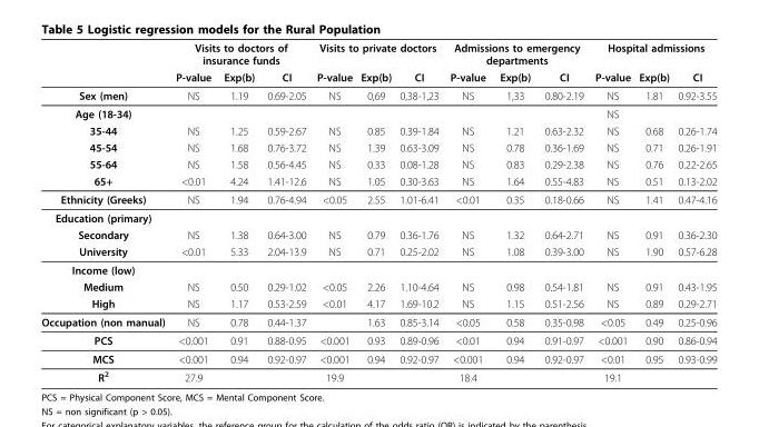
<table><thead><tr><td rowspan="2"></td><td colspan="3">Visits to doctors of insurance funds</td><td colspan="3">Visits to private doctors</td><td colspan="3">Admissions to emergency departments</td><td colspan="3">Hospital admissions</td></tr><tr><td>P-value</td><td>Exp(b)</td><td>CI</td><td>P-value</td><td>Exp(b)</td><td>CI</td><td>P-value</td><td>Exp(b)</td><td>CI</td><td>P-value</td><td>Exp(b)</td><td>CI</td></tr></thead><tbody><tr><td>Sex (men)</td><td>NS</td><td>1.19</td><td>0.69-2.05</td><td>NS</td><td>0,69</td><td>0,38-1,23</td><td>NS</td><td>1,33</td><td>0.80-2.19</td><td>NS</td><td>1.81</td><td>0.92-3.55</td></tr><tr><td>Age (18-34)</td><td></td><td></td><td></td><td></td><td></td><td></td><td></td><td></td><td></td><td>NS</td><td></td><td></td></tr><tr><td>35-44</td><td>NS</td><td>1.25</td><td>0.59-2.67</td><td>NS</td><td>0.85</td><td>0.39-1.84</td><td>NS</td><td>1.21</td><td>0.63-2.32</td><td>NS</td><td>0.68</td><td>0.26-1.74</td></tr><tr><td>45-54</td><td>NS</td><td>1.68</td><td>0.76-3.72</td><td>NS</td><td>1.39</td><td>0.63-3.09</td><td>NS</td><td>0.78</td><td>0.36-1.69</td><td>NS</td><td>0.71</td><td>0.26-1.91</td></tr><tr><td>55-64</td><td>NS</td><td>1.58</td><td>0.56-4.45</td><td>NS</td><td>0.33</td><td>0.08-1.28</td><td>NS</td><td>0.83</td><td>0.29-2.38</td><td>NS</td><td>0.76</td><td>0.22-2.65</td></tr><tr><td>65+</td><td>&lt;0.01</td><td>4.24</td><td>1.41-12.6</td><td>NS</td><td>1.05</td><td>0.30-3.63</td><td>NS</td><td>1.64</td><td>0.55-4.83</td><td>NS</td><td>0.51</td><td>0.13-2.02</td></tr><tr><td>Ethnicity (Greeks)</td><td>NS</td><td>1.94</td><td>0.76-4.94</td><td>&lt;0.05</td><td>2.55</td><td>1.01-6.41</td><td>&lt;0.01</td><td>0.35</td><td>0.18-0.66</td><td>NS</td><td>1.41</td><td>0.47-4.16</td></tr><tr><td colspan="13">Education (primary)</td></tr><tr><td>Secondary</td><td>NS</td><td>1.38</td><td>0.64-3.00</td><td>NS</td><td>0.79</td><td>0.36-1.76</td><td>NS</td><td>1.32</td><td>0.64-2.71</td><td>NS</td><td>0.91</td><td>0.36-2.30</td></tr><tr><td>University</td><td>&lt;0.01</td><td>5.33</td><td>2.04-13.9</td><td>NS</td><td>0.71</td><td>0.25-2.02</td><td>NS</td><td>1.08</td><td>0.39-3.00</td><td>NS</td><td>1.90</td><td>0.57-6.28</td></tr><tr><td colspan="13">Income (low)</td></tr><tr><td>Medium</td><td>NS</td><td>0.50</td><td>0.29-1.02</td><td>&lt;0.05</td><td>2.26</td><td>1.10-4.64</td><td>NS</td><td>0.98</td><td>0.54-1.81</td><td>NS</td><td>0.91</td><td>0.43-1.95</td></tr><tr><td>High</td><td>NS</td><td>1.17</td><td>0.53-2.59</td><td>&lt;0.01</td><td>4.17</td><td>1.69-10.2</td><td>NS</td><td>1.15</td><td>0.51-2.56</td><td>NS</td><td>0.89</td><td>0.29-2.71</td></tr><tr><td>Occupation (non manual)</td><td>NS</td><td>0.78</td><td>0.44-1.37</td><td></td><td>1.63</td><td>0.85-3.14</td><td>&lt;0.05</td><td>0.58</td><td>0.35-0.98</td><td>&lt;0.05</td><td>0.49</td><td>0.25-0.96</td></tr><tr><td>PCS</td><td>&lt;0.001</td><td>0.91</td><td>0.88-0.95</td><td>&lt;0.001</td><td>0.93</td><td>0.89-0.96</td><td>&lt;0.01</td><td>0.94</td><td>0.91-0.97</td><td>&lt;0.001</td><td>0.90</td><td>0.86-0.94</td></tr><tr><td>MCS</td><td>&lt;0.001</td><td>0.94</td><td>0.92-0.97</td><td>&lt;0.001</td><td>0.94</td><td>0.92-0.97</td><td>&lt;0.001</td><td>0.94</td><td>0.92-0.97</td><td>&lt;0.01</td><td>0.95</td><td>0.93-0.99</td></tr><tr><td>R<sup>2</sup></td><td>27.9</td><td></td><td></td><td>19.9</td><td></td><td></td><td>18.4</td><td></td><td></td><td>19.1</td><td></td><td></td></tr></tbody></table>